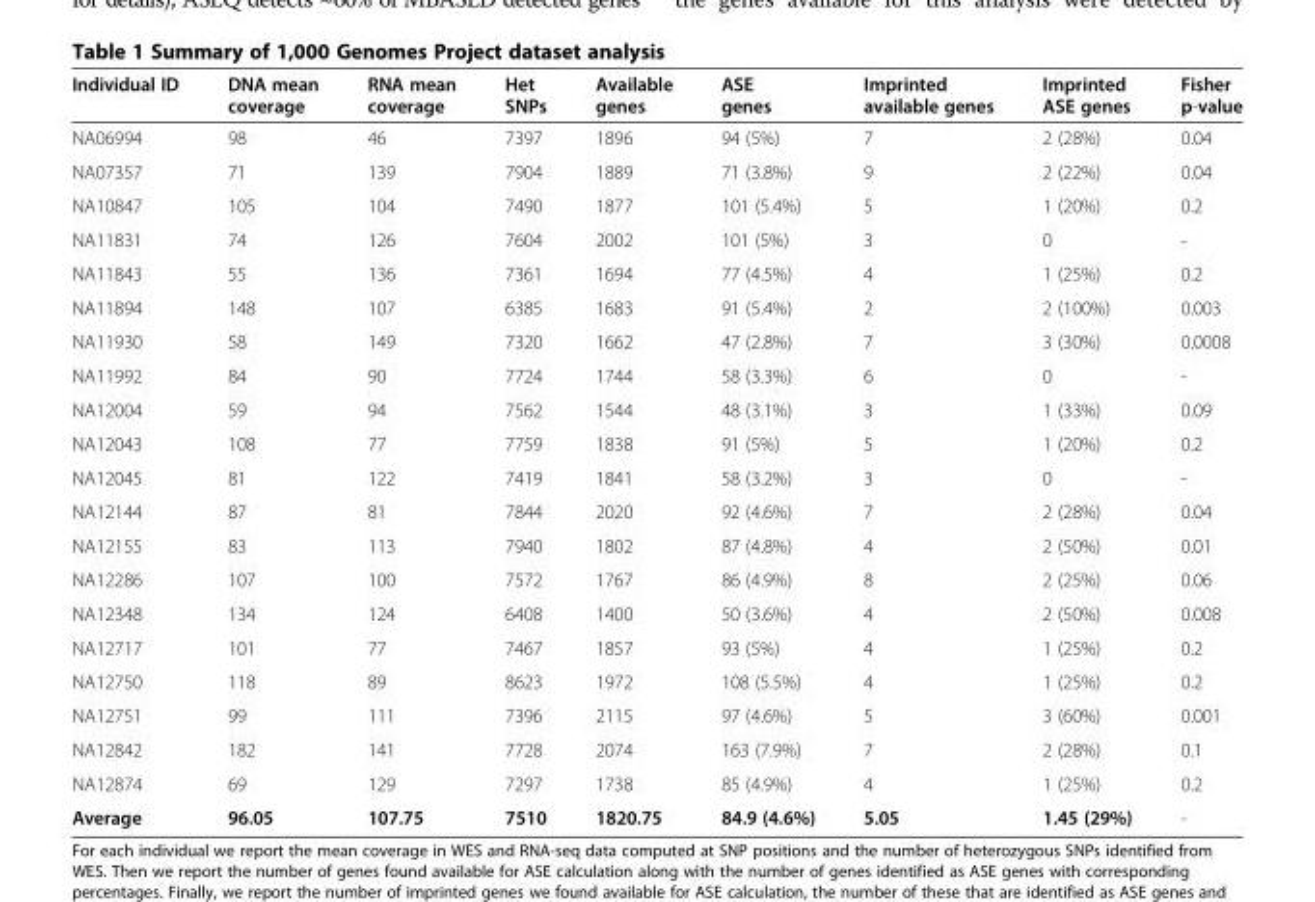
<table><thead><tr><td>Individual ID</td><td>DNA mean coverage</td><td>RNA mean coverage</td><td>Het SNPs</td><td>Available genes</td><td>ASE genes</td><td>Imprinted available genes</td><td>Imprinted ASE genes</td><td>Fisher p-value</td></tr></thead><tbody><tr><td>NA06994</td><td>98</td><td>46</td><td>7397</td><td>1896</td><td>94 (5%)</td><td>7</td><td>2 (28%)</td><td>0.04</td></tr><tr><td>NA07357</td><td>71</td><td>139</td><td>7904</td><td>1889</td><td>71 (3.8%)</td><td>9</td><td>2 (22%)</td><td>0.04</td></tr><tr><td>NA10847</td><td>105</td><td>104</td><td>7490</td><td>1877</td><td>101 (5.4%)</td><td>5</td><td>1 (20%)</td><td>0.2</td></tr><tr><td>NA11831</td><td>74</td><td>126</td><td>7604</td><td>2002</td><td>101 (5%)</td><td>3</td><td>0</td><td>-</td></tr><tr><td>NA11843</td><td>55</td><td>136</td><td>7361</td><td>1694</td><td>77 (4.5%)</td><td>4</td><td>1 (25%)</td><td>0.2</td></tr><tr><td>NA11894</td><td>148</td><td>107</td><td>6385</td><td>1683</td><td>91 (5.4%)</td><td>2</td><td>2 (100%)</td><td>0.003</td></tr><tr><td>NA11930</td><td>58</td><td>149</td><td>7320</td><td>1662</td><td>47 (2.8%)</td><td>7</td><td>3 (30%)</td><td>0.0008</td></tr><tr><td>NA11992</td><td>84</td><td>90</td><td>7724</td><td>1744</td><td>58 (3.3%)</td><td>6</td><td>0</td><td>-</td></tr><tr><td>NA12004</td><td>59</td><td>94</td><td>7562</td><td>1544</td><td>48 (3.1%)</td><td>3</td><td>1 (33%)</td><td>0.09</td></tr><tr><td>NA12043</td><td>108</td><td>77</td><td>7759</td><td>1838</td><td>91 (5%)</td><td>5</td><td>1 (20%)</td><td>0.2</td></tr><tr><td>NA12045</td><td>81</td><td>122</td><td>7419</td><td>1841</td><td>58 (3.2%)</td><td>3</td><td>0</td><td>-</td></tr><tr><td>NA12144</td><td>87</td><td>81</td><td>7844</td><td>2020</td><td>92 (4.6%)</td><td>7</td><td>2 (28%)</td><td>0.04</td></tr><tr><td>NA12155</td><td>83</td><td>113</td><td>7940</td><td>1802</td><td>87 (4.8%)</td><td>4</td><td>2 (50%)</td><td>0.01</td></tr><tr><td>NA12286</td><td>107</td><td>100</td><td>7572</td><td>1767</td><td>86 (4.9%)</td><td>8</td><td>2 (25%)</td><td>0.06</td></tr><tr><td>NA12348</td><td>134</td><td>124</td><td>6408</td><td>1400</td><td>50 (3.6%)</td><td>4</td><td>2 (50%)</td><td>0.008</td></tr><tr><td>NA12717</td><td>101</td><td>77</td><td>7467</td><td>1857</td><td>93 (5%)</td><td>4</td><td>1 (25%)</td><td>0.2</td></tr><tr><td>NA12750</td><td>118</td><td>89</td><td>8623</td><td>1972</td><td>108 (5.5%)</td><td>4</td><td>1 (25%)</td><td>0.2</td></tr><tr><td>NA12751</td><td>99</td><td>111</td><td>7396</td><td>2115</td><td>97 (4.6%)</td><td>5</td><td>3 (60%)</td><td>0.001</td></tr><tr><td>NA12842</td><td>182</td><td>141</td><td>7728</td><td>2074</td><td>163 (7.9%)</td><td>7</td><td>2 (28%)</td><td>0.1</td></tr><tr><td>NA12874</td><td>69</td><td>129</td><td>7297</td><td>1738</td><td>85 (4.9%)</td><td>4</td><td>1 (25%)</td><td>0.2</td></tr><tr><td>Average</td><td>96.05</td><td>107.75</td><td>7510</td><td>1820.75</td><td>84.9 (4.6%)</td><td>5.05</td><td>1.45 (29%)</td><td>-</td></tr></tbody></table>